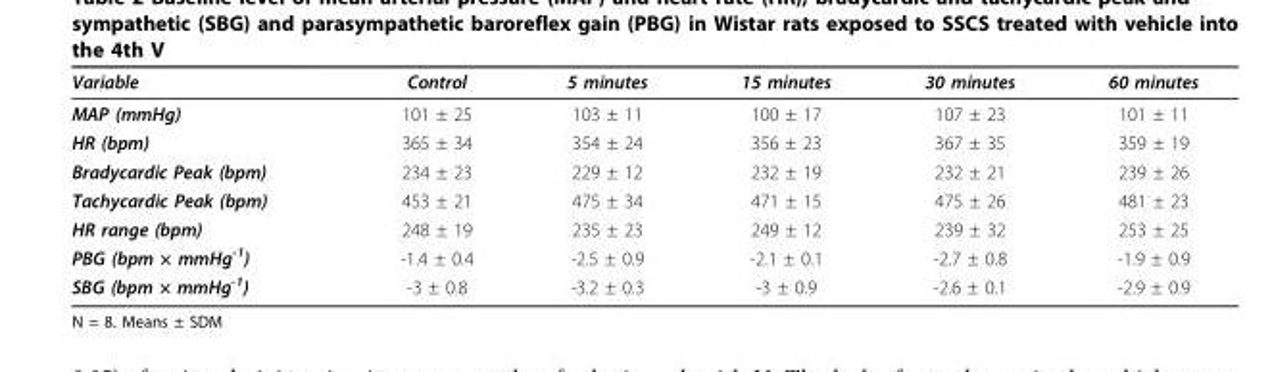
<table><thead><tr><td>Variable</td><td>Control</td><td>5 minutes</td><td>15 minutes</td><td>30 minutes</td><td>60 minutes</td></tr></thead><tbody><tr><td>MAP (mmHg)</td><td>101 ± 25</td><td>103 ± 11</td><td>100 ± 17</td><td>107 ± 23</td><td>101 ± 11</td></tr><tr><td>HR (bpm)</td><td>365 ± 34</td><td>354 ± 24</td><td>356 ± 23</td><td>367 ± 35</td><td>359 ± 19</td></tr><tr><td>Bradycardic Peak (bpm)</td><td>234 ± 23</td><td>229 ± 12</td><td>232 ± 19</td><td>232 ± 21</td><td>239 ± 26</td></tr><tr><td>Tachycardic Peak (bpm)</td><td>453 ± 21</td><td>475 ± 34</td><td>471 ± 15</td><td>475 ± 26</td><td>481 ± 23</td></tr><tr><td>HR range (bpm)</td><td>248 ± 19</td><td>235 ± 23</td><td>249 ± 12</td><td>239 ± 32</td><td>253 ± 25</td></tr><tr><td>PBG (bpm × mmHg<sup>-1</sup>)</td><td>-1.4 ± 0.4</td><td>-2.5 ± 0.9</td><td>-2.1 ± 0.1</td><td>-2.7 ± 0.8</td><td>-1.9 ± 0.9</td></tr><tr><td>SBG (bpm × mmHg<sup>-1</sup>)</td><td>-3 ± 0.8</td><td>-3.2 ± 0.3</td><td>-3 ± 0.9</td><td>-2.6 ± 0.1</td><td>-2.9 ± 0.9</td></tr></tbody></table>